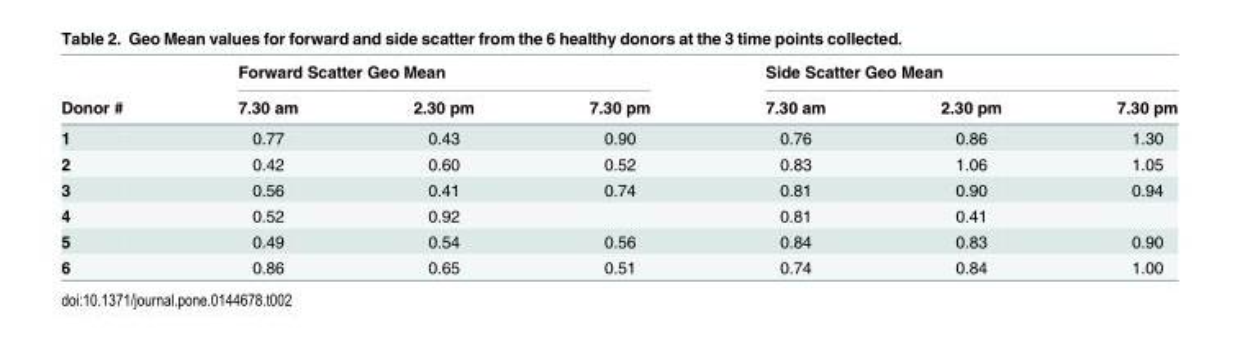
<table><thead><tr><td rowspan="2">Donor #</td><td colspan="3">Forward Scatter Geo Mean</td><td colspan="3">Side Scatter Geo Mean</td></tr><tr><td>7.30 am</td><td>2.30 pm</td><td>7.30 pm</td><td>7.30 am</td><td>2.30 pm</td><td>7.30 pm</td></tr></thead><tbody><tr><td>1</td><td>0.77</td><td>0.43</td><td>0.90</td><td>0.76</td><td>0.86</td><td>1.30</td></tr><tr><td>2</td><td>0.42</td><td>0.60</td><td>0.52</td><td>0.83</td><td>1.06</td><td>1.05</td></tr><tr><td>3</td><td>0.56</td><td>0.41</td><td>0.74</td><td>0.81</td><td>0.90</td><td>0.94</td></tr><tr><td>4</td><td>0.52</td><td>0.92</td><td></td><td>0.81</td><td>0.41</td><td></td></tr><tr><td>5</td><td>0.49</td><td>0.54</td><td>0.56</td><td>0.84</td><td>0.83</td><td>0.90</td></tr><tr><td>6</td><td>0.86</td><td>0.65</td><td>0.51</td><td>0.74</td><td>0.84</td><td>1.00</td></tr></tbody></table>